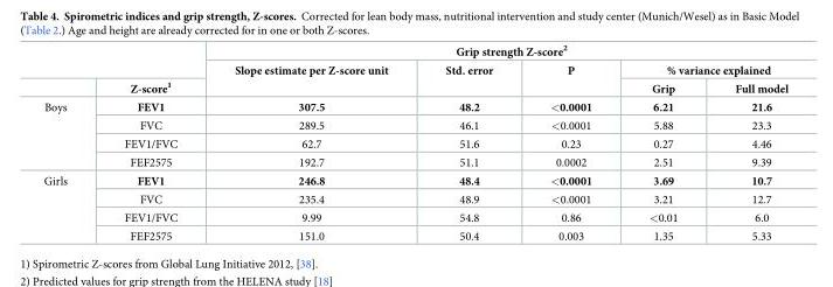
<table><thead><tr><td rowspan="3"></td><td rowspan="3">Z-score<sup>1</sup></td><td colspan="5">Grip strength Z-score<sup>2</sup></td></tr><tr><td rowspan="2">Slope estimate per Z-score unit</td><td rowspan="2">Std. error</td><td rowspan="2">P</td><td colspan="2">% variance explained</td></tr><tr><td>Grip</td><td>Full model</td></tr></thead><tbody><tr><td rowspan="4">Boys</td><td>FEV1</td><td>307.5</td><td>48.2</td><td>&lt;0.0001</td><td>6.21</td><td>21.6</td></tr><tr><td>FVC</td><td>289.5</td><td>46.1</td><td>&lt;0.0001</td><td>5.88</td><td>23.3</td></tr><tr><td>FEV1/FVC</td><td>62.7</td><td>51.6</td><td>0.23</td><td>0.27</td><td>4.46</td></tr><tr><td>FEF2575</td><td>192.7</td><td>51.1</td><td>0.0002</td><td>2.51</td><td>9.39</td></tr><tr><td rowspan="4">Girls</td><td>FEV1</td><td>246.8</td><td>48.4</td><td>&lt;0.0001</td><td>3.69</td><td>10.7</td></tr><tr><td>FVC</td><td>235.4</td><td>48.9</td><td>&lt;0.0001</td><td>3.21</td><td>12.7</td></tr><tr><td>FEV1/FVC</td><td>9.99</td><td>54.8</td><td>0.86</td><td>&lt;0.01</td><td>6.0</td></tr><tr><td>FEF2575</td><td>151.0</td><td>50.4</td><td>0.003</td><td>1.35</td><td>5.33</td></tr></tbody></table>